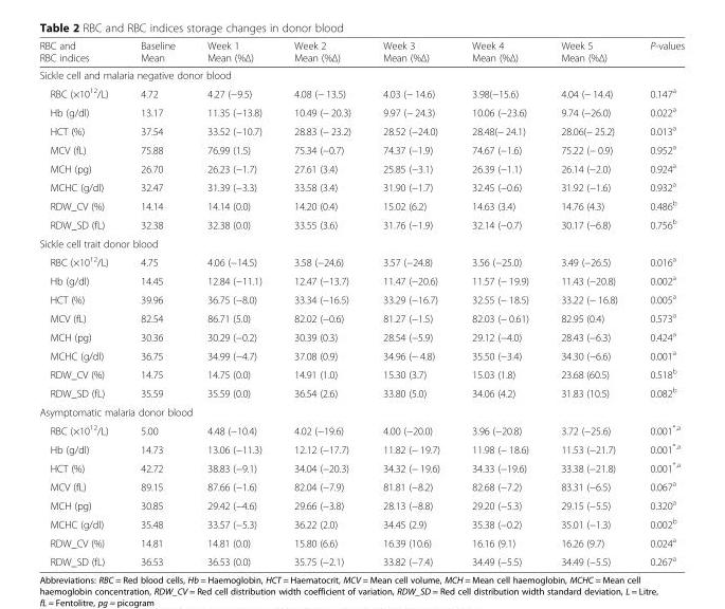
<table><thead><tr><td>RBC and RBC indices</td><td>Baseline Mean</td><td>Week 1 Mean (%Δ)</td><td>Week 2 Mean (%Δ)</td><td>Week 3 Mean (%Δ)</td><td>Week 4 Mean (%Δ)</td><td>Week 5 Mean (%Δ)</td><td>P-values</td></tr></thead><tbody><tr><td colspan="8">Sickle cell and malaria negative donor blood</td></tr><tr><td>RBC (×10<sup>12</sup>/L)</td><td>4.72</td><td>4.27 (−9.5)</td><td>4.08 (− 13.5)</td><td>4.03 (− 14.6)</td><td>3.98(−15.6)</td><td>4.04 (− 14.4)</td><td>0.147<sup>a</sup></td></tr><tr><td>Hb (g/dl)</td><td>13.17</td><td>11.35 (−13.8)</td><td>10.49 (− 20.3)</td><td>9.97 (− 24.3)</td><td>10.06 (−23.6)</td><td>9.74 (−26.0)</td><td>0.022<sup>a</sup></td></tr><tr><td>HCT (%)</td><td>37.54</td><td>33.52 (−10.7)</td><td>28.83 (− 23.2)</td><td>28.52 (−24.0)</td><td>28.48(− 24.1)</td><td>28.06(− 25.2)</td><td>0.013<sup>a</sup></td></tr><tr><td>MCV (fL)</td><td>75.88</td><td>76.99 (1.5)</td><td>75.34 (−0.7)</td><td>74.37 (−1.9)</td><td>74.67 (−1.6)</td><td>75.22 (− 0.9)</td><td>0.952<sup>a</sup></td></tr><tr><td>MCH (pg)</td><td>26.70</td><td>26.23 (−1.7)</td><td>27.61 (3.4)</td><td>25.85 (−3.1)</td><td>26.39 (−1.1)</td><td>26.14 (−2.0)</td><td>0.924<sup>a</sup></td></tr><tr><td>MCHC (g/dl)</td><td>32.47</td><td>31.39 (−3.3)</td><td>33.58 (3.4)</td><td>31.90 (−1.7)</td><td>32.45 (−0.6)</td><td>31.92 (−1.6)</td><td>0.932<sup>a</sup></td></tr><tr><td>RDW_CV (%)</td><td>14.14</td><td>14.14 (0.0)</td><td>14.20 (0.4)</td><td>15.02 (6.2)</td><td>14.63 (3.4)</td><td>14.76 (4.3)</td><td>0.486<sup>b</sup></td></tr><tr><td>RDW_SD (fL)</td><td>32.38</td><td>32.38 (0.0)</td><td>33.55 (3.6)</td><td>31.76 (−1.9)</td><td>32.14 (−0.7)</td><td>30.17 (−6.8)</td><td>0.756<sup>b</sup></td></tr><tr><td colspan="8">Sickle cell trait donor blood</td></tr><tr><td>RBC (×10<sup>12</sup>/L)</td><td>4.75</td><td>4.06 (−14.5)</td><td>3.58 (−24.6)</td><td>3.57 (−24.8)</td><td>3.56 (−25.0)</td><td>3.49 (−26.5)</td><td>0.016<sup>a</sup></td></tr><tr><td>Hb (g/dl)</td><td>14.45</td><td>12.84 (−11.1)</td><td>12.47 (−13.7)</td><td>11.47 (−20.6)</td><td>11.57 (− 19.9)</td><td>11.43 (−20.8)</td><td>0.002<sup>a</sup></td></tr><tr><td>HCT (%)</td><td>39.96</td><td>36.75 (−8.0)</td><td>33.34 (−16.5)</td><td>33.29 (−16.7)</td><td>32.55 (− 18.5)</td><td>33.22 (− 16.8)</td><td>0.005<sup>a</sup></td></tr><tr><td>MCV (fL)</td><td>82.54</td><td>86.71 (5.0)</td><td>82.02 (−0.6)</td><td>81.27 (−1.5)</td><td>82.03 (− 0.61)</td><td>82.95 (0.4)</td><td>0.573<sup>a</sup></td></tr><tr><td>MCH (pg)</td><td>30.36</td><td>30.29 (−0.2)</td><td>30.39 (0.3)</td><td>28.54 (−5.9)</td><td>29.12 (−4.0)</td><td>28.43 (−6.3)</td><td>0.424<sup>a</sup></td></tr><tr><td>MCHC (g/dl)</td><td>36.75</td><td>34.99 (−4.7)</td><td>37.08 (0.9)</td><td>34.96 (− 4.8)</td><td>35.50 (−3.4)</td><td>34.30 (−6.6)</td><td>0.001<sup>a</sup></td></tr><tr><td>RDW_CV (%)</td><td>14.75</td><td>14.75 (0.0)</td><td>14.91 (1.0)</td><td>15.30 (3.7)</td><td>15.03 (1.8)</td><td>23.68 (60.5)</td><td>0.518<sup>b</sup></td></tr><tr><td>RDW_SD (fL)</td><td>35.59</td><td>35.59 (0.0)</td><td>36.54 (2.6)</td><td>33.80 (5.0)</td><td>34.06 (4.2)</td><td>31.83 (10.5)</td><td>0.082<sup>b</sup></td></tr><tr><td colspan="8">Asymptomatic malaria donor blood</td></tr><tr><td>RBC (×10<sup>12</sup>/L)</td><td>5.00</td><td>4.48 (−10.4)</td><td>4.02 (−19.6)</td><td>4.00 (−20.0)</td><td>3.96 (−20.8)</td><td>3.72 (−25.6)</td><td>0.001<sup>*,a</sup></td></tr><tr><td>Hb (g/dl)</td><td>14.73</td><td>13.06 (−11.3)</td><td>12.12 (−17.7)</td><td>11.82 (− 19.7)</td><td>11.98 (− 18.6)</td><td>11.53 (−21.7)</td><td>0.001<sup>*,a</sup></td></tr><tr><td>HCT (%)</td><td>42.72</td><td>38.83 (−9.1)</td><td>34.04 (−20.3)</td><td>34.32 (− 19.6)</td><td>34.33 (−19.6)</td><td>33.38 (−21.8)</td><td>0.001<sup>*,a</sup></td></tr><tr><td>MCV (fL)</td><td>89.15</td><td>87.66 (−1.6)</td><td>82.04 (−7.9)</td><td>81.81 (−8.2)</td><td>82.68 (−7.2)</td><td>83.31 (−6.5)</td><td>0.067<sup>a</sup></td></tr><tr><td>MCH (pg)</td><td>30.85</td><td>29.42 (−4.6)</td><td>29.66 (−3.8)</td><td>28.13 (−8.8)</td><td>29.20 (−5.3)</td><td>29.15 (−5.5)</td><td>0.320<sup>a</sup></td></tr><tr><td>MCHC (g/dl)</td><td>35.48</td><td>33.57 (−5.3)</td><td>36.22 (2.0)</td><td>34.45 (2.9)</td><td>35.38 (−0.2)</td><td>35.01 (−1.3)</td><td>0.002<sup>b</sup></td></tr><tr><td>RDW_CV (%)</td><td>14.81</td><td>14.81 (0.0)</td><td>15.80 (6.6)</td><td>16.39 (10.6)</td><td>16.16 (9.1)</td><td>16.26 (9.7)</td><td>0.024<sup>a</sup></td></tr><tr><td>RDW_SD (fL)</td><td>36.53</td><td>36.53 (0.0)</td><td>35.75 (−2.1)</td><td>33.82 (−7.4)</td><td>34.49 (−5.5)</td><td>34.49 (−5.5)</td><td>0.267<sup>a</sup></td></tr></tbody></table>